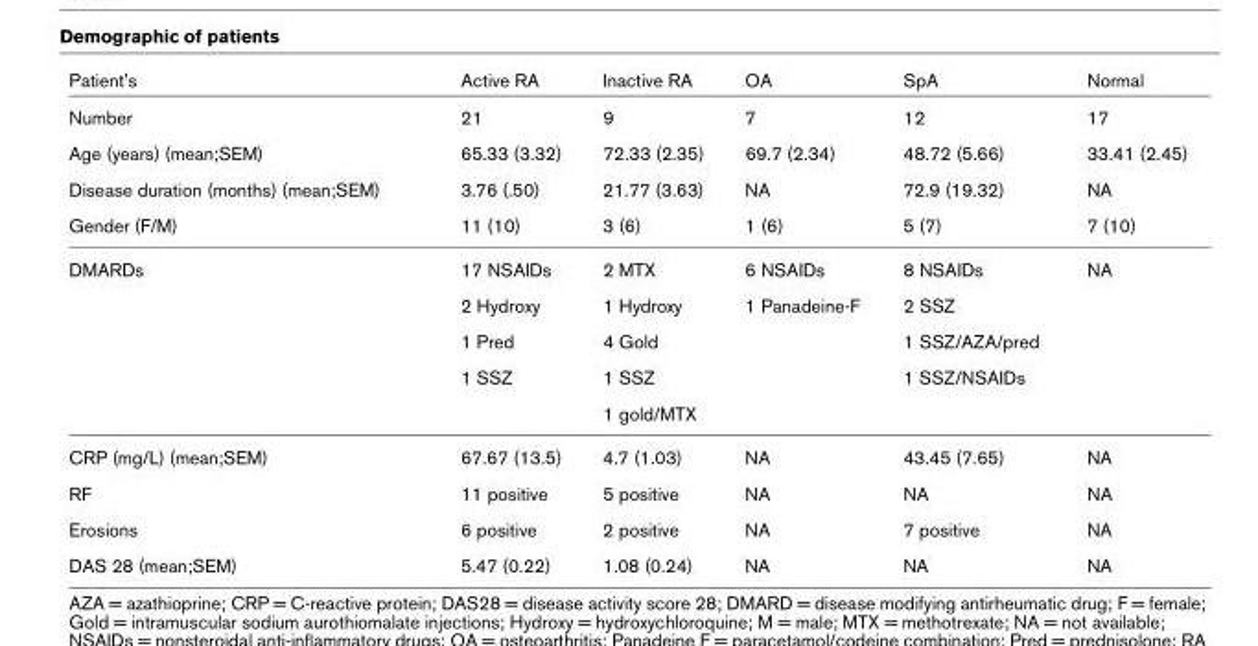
<table><thead><tr><td>Patient&#x27;s</td><td>Active RA</td><td>Inactive RA</td><td>OA</td><td>SpA</td><td>Normal</td></tr></thead><tbody><tr><td>Number</td><td>21</td><td>9</td><td>7</td><td>12</td><td>17</td></tr><tr><td>Age (years) (mean;SEM)</td><td>65.33 (3.32)</td><td>72.33 (2.35)</td><td>69.7 (2.34)</td><td>48.72 (5.66)</td><td>33.41 (2.45)</td></tr><tr><td>Disease duration (months) (mean;SEM)</td><td>3.76 (.50)</td><td>21.77 (3.63)</td><td>NA</td><td>72.9 (19.32)</td><td>NA</td></tr><tr><td>Gender (F/M)</td><td>11 (10)</td><td>3 (6)</td><td>1 (6)</td><td>5 (7)</td><td>7 (10)</td></tr><tr><td rowspan="5">DMARDs</td><td>17 NSAIDs</td><td>2 MTX</td><td>6 NSAIDs</td><td>8 NSAIDs</td><td>NA</td></tr><tr><td>2 Hydroxy</td><td>1 Hydroxy</td><td>1 Panadeine-F</td><td>2 SSZ</td><td></td></tr><tr><td>1 Pred</td><td>4 Gold</td><td></td><td>1 SSZ/AZA/pred</td><td></td></tr><tr><td>1 SSZ</td><td>1 SSZ</td><td></td><td>1 SSZ/NSAIDs</td><td></td></tr><tr><td></td><td>1 gold/MTX</td><td></td><td></td><td></td></tr><tr><td>CRP (mg/L) (mean;SEM)</td><td>67.67 (13.5)</td><td>4.7 (1.03)</td><td>NA</td><td>43.45 (7.65)</td><td>NA</td></tr><tr><td>RF</td><td>11 positive</td><td>5 positive</td><td>NA</td><td>NA</td><td>NA</td></tr><tr><td>Erosions</td><td>6 positive</td><td>2 positive</td><td>NA</td><td>7 positive</td><td>NA</td></tr><tr><td>DAS 28 (mean;SEM)</td><td>5.47 (0.22)</td><td>1.08 (0.24)</td><td>NA</td><td>NA</td><td>NA</td></tr></tbody></table>